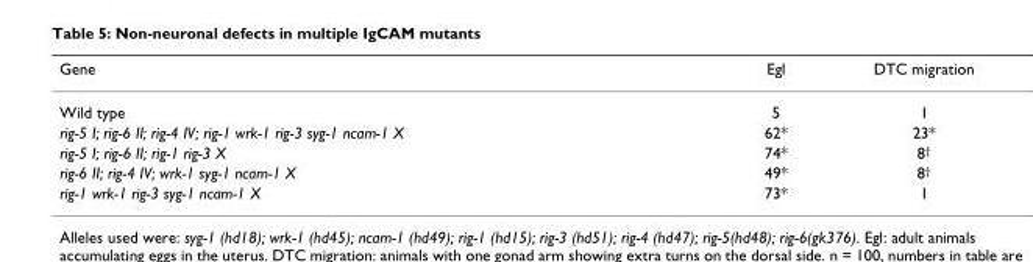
<table><thead><tr><td>Gene</td><td>Egl</td><td>DTC migration</td></tr></thead><tbody><tr><td>Wild type</td><td>5</td><td>1</td></tr><tr><td>rig-5 I; rig-6 II; rig-4 IV; rig-1 wrk-1 rig-3 syg-1 ncam-1 X</td><td>62*</td><td>23*</td></tr><tr><td>rig-5 I; rig-6 II; rig-1 rig-3 X</td><td>74*</td><td>8<sup>†</sup></td></tr><tr><td>rig-6 II; rig-4 IV; wrk-1 syg-1 ncam-1 X</td><td>49*</td><td>8<sup>†</sup></td></tr><tr><td>rig-1 wrk-1 rig-3 syg-1 ncam-1 X</td><td>73*</td><td>1</td></tr></tbody></table>